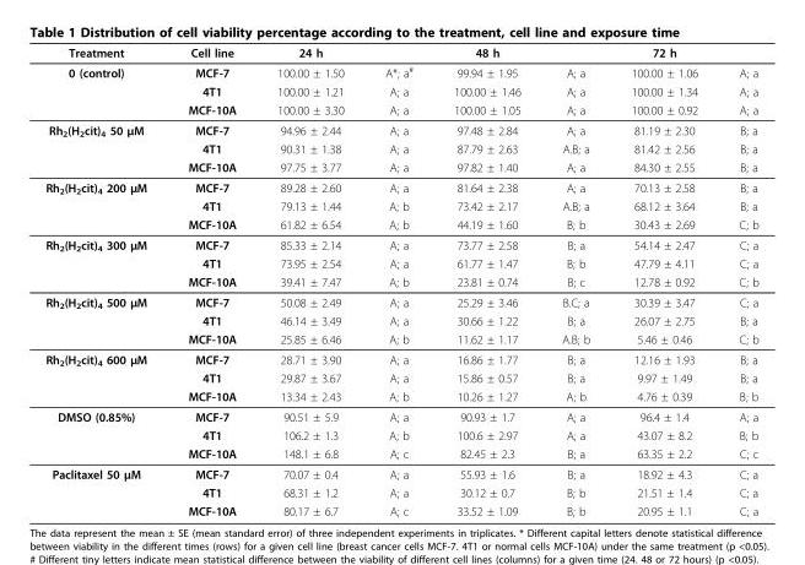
<table><thead><tr><td>Treatment</td><td>Cell line</td><td>24 h</td><td></td><td>48 h</td><td></td><td>72 h</td><td></td></tr></thead><tbody><tr><td rowspan="3">0 (control)</td><td>MCF-7</td><td>100.00 ± 1.50</td><td>A*; a<sup>#</sup></td><td>99.94 ± 1.95</td><td>A; a</td><td>100.00 ± 1.06</td><td>A; a</td></tr><tr><td>4T1</td><td>100.00 ± 1.21</td><td>A; a</td><td>100.00 ± 1.46</td><td>A; a</td><td>100.00 ± 1.34</td><td>A; a</td></tr><tr><td>MCF-10A</td><td>100.00 ± 3.30</td><td>A; a</td><td>100.00 ± 1.05</td><td>A; a</td><td>100.00 ± 0.92</td><td>A; a</td></tr><tr><td rowspan="3">Rh<sub>2</sub>(H<sub>2</sub>cit)<sub>4</sub> 50 μM</td><td>MCF-7</td><td>94.96 ± 2.44</td><td>A; a</td><td>97.48 ± 2.84</td><td>A; a</td><td>81.19 ± 2.30</td><td>B; a</td></tr><tr><td>4T1</td><td>90.31 ± 1.38</td><td>A; a</td><td>87.79 ± 2.63</td><td>A.B; a</td><td>81.42 ± 2.56</td><td>B; a</td></tr><tr><td>MCF-10A</td><td>97.75 ± 3.77</td><td>A; a</td><td>97.82 ± 1.40</td><td>A; a</td><td>84.30 ± 2.55</td><td>B; a</td></tr><tr><td rowspan="3">Rh<sub>2</sub>(H<sub>2</sub>cit)<sub>4</sub> 200 μM</td><td>MCF-7</td><td>89.28 ± 2.60</td><td>A; a</td><td>81.64 ± 2.38</td><td>A; a</td><td>70.13 ± 2.58</td><td>B; a</td></tr><tr><td>4T1</td><td>79.13 ± 1.44</td><td>A; b</td><td>73.42 ± 2.17</td><td>A.B; a</td><td>68.12 ± 3.64</td><td>B; a</td></tr><tr><td>MCF-10A</td><td>61.82 ± 6.54</td><td>A; b</td><td>44.19 ± 1.60</td><td>B; b</td><td>30.43 ± 2.69</td><td>C; b</td></tr><tr><td rowspan="3">Rh<sub>2</sub>(H<sub>2</sub>cit)<sub>4</sub> 300 μM</td><td>MCF-7</td><td>85.33 ± 2.14</td><td>A; a</td><td>73.77 ± 2.58</td><td>B; a</td><td>54.14 ± 2.47</td><td>C; a</td></tr><tr><td>4T1</td><td>73.95 ± 2.54</td><td>A; a</td><td>61.77 ± 1.47</td><td>B; b</td><td>47.79 ± 4.11</td><td>C; a</td></tr><tr><td>MCF-10A</td><td>39.41 ± 7.47</td><td>A; b</td><td>23.81 ± 0.74</td><td>B; c</td><td>12.78 ± 0.92</td><td>C; b</td></tr><tr><td rowspan="3">Rh<sub>2</sub>(H<sub>2</sub>cit)<sub>4</sub> 500 μM</td><td>MCF-7</td><td>50.08 ± 2.49</td><td>A; a</td><td>25.29 ± 3.46</td><td>B.C; a</td><td>30.39 ± 3.47</td><td>C; a</td></tr><tr><td>4T1</td><td>46.14 ± 3.49</td><td>A; a</td><td>30.66 ± 1.22</td><td>B; a</td><td>26.07 ± 2.75</td><td>B; a</td></tr><tr><td>MCF-10A</td><td>25.85 ± 6.46</td><td>A; b</td><td>11.62 ± 1.17</td><td>A.B; b</td><td>5.46 ± 0.46</td><td>C; b</td></tr><tr><td rowspan="3">Rh<sub>2</sub>(H<sub>2</sub>cit)<sub>4</sub> 600 μM</td><td>MCF-7</td><td>28.71 ± 3.90</td><td>A; a</td><td>16.86 ± 1.77</td><td>B; a</td><td>12.16 ± 1.93</td><td>B; a</td></tr><tr><td>4T1</td><td>29.87 ± 3.67</td><td>A; a</td><td>15.86 ± 0.57</td><td>B; a</td><td>9.97 ± 1.49</td><td>B; a</td></tr><tr><td>MCF-10A</td><td>13.34 ± 2.43</td><td>A; b</td><td>10.26 ± 1.27</td><td>A; b</td><td>4.76 ± 0.39</td><td>B; b</td></tr><tr><td rowspan="3">DMSO (0.85%)</td><td>MCF-7</td><td>90.51 ± 5.9</td><td>A; a</td><td>90.93 ± 1.7</td><td>A; a</td><td>96.4 ± 1.4</td><td>A; a</td></tr><tr><td>4T1</td><td>106.2 ± 1.3</td><td>A; b</td><td>100.6 ± 2.97</td><td>A; a</td><td>43.07 ± 8.2</td><td>B; b</td></tr><tr><td>MCF-10A</td><td>148.1 ± 6.8</td><td>A; c</td><td>82.45 ± 2.3</td><td>B; a</td><td>63.35 ± 2.2</td><td>C; c</td></tr><tr><td rowspan="3">Paclitaxel 50 μM</td><td>MCF-7</td><td>70.07 ± 0.4</td><td>A; a</td><td>55.93 ± 1.6</td><td>B; a</td><td>18.92 ± 4.3</td><td>C; a</td></tr><tr><td>4T1</td><td>68.31 ± 1.2</td><td>A; a</td><td>30.12 ± 0.7</td><td>B; b</td><td>21.51 ± 1.4</td><td>C; a</td></tr><tr><td>MCF-10A</td><td>80.17 ± 6.7</td><td>A; c</td><td>33.52 ± 1.09</td><td>B; b</td><td>20.95 ± 1.1</td><td>C; a</td></tr></tbody></table>